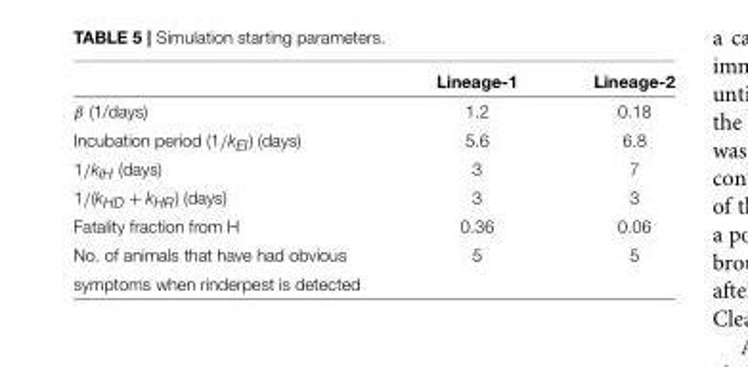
<table><thead><tr><td></td><td>Lineage-1</td><td>Lineage-2</td></tr></thead><tbody><tr><td>β (1/days)</td><td>1.2</td><td>0.18</td></tr><tr><td>Incubation period (1/k<sub>EI</sub>) (days)</td><td>5.6</td><td>6.8</td></tr><tr><td>1/k<sub>IH</sub> (days)</td><td>3</td><td>7</td></tr><tr><td>1/(k<sub>HD</sub> + k<sub>HR</sub>) (days)</td><td>3</td><td>3</td></tr><tr><td>Fatality fraction from H</td><td>0.36</td><td>0.06</td></tr><tr><td>No. of animals that have had obvious</td><td>5</td><td>5</td></tr><tr><td>symptoms when rinderpest is detected</td><td></td><td></td></tr></tbody></table>